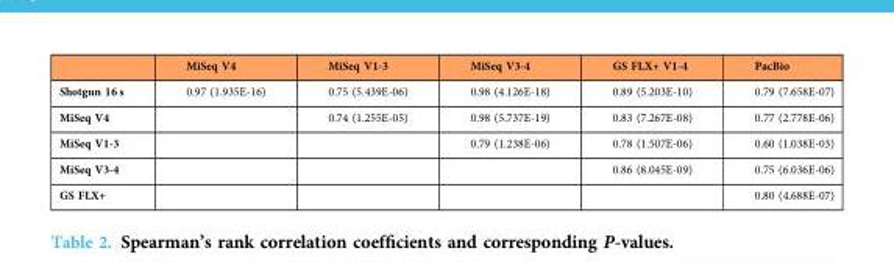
<table><thead><tr><td></td><td>MiSeq V4</td><td>MiSeq V1-3</td><td>MiSeq V3-4</td><td>GS FLX+ V1-4</td><td>PacBio</td></tr></thead><tbody><tr><td>Shotgun 16 s</td><td>0.97 (1.935E-16)</td><td>0.75 (5.439E-06)</td><td>0.98 (4.126E-18)</td><td>0.89 (5.203E-10)</td><td>0.79 (7.658E-07)</td></tr><tr><td>MiSeq V4</td><td></td><td>0.74 (1.255E-05)</td><td>0.98 (5.737E-19)</td><td>0.83 (7.267E-08)</td><td>0.77 (2.778E-06)</td></tr><tr><td>MiSeq V1-3</td><td></td><td></td><td>0.79 (1.238E-06)</td><td>0.78 (1.507E-06)</td><td>0.60 (1.038E-03)</td></tr><tr><td>MiSeq V3-4</td><td></td><td></td><td></td><td>0.86 (8.045E-09)</td><td>0.75 (6.036E-06)</td></tr><tr><td>GS FLX+</td><td></td><td></td><td></td><td></td><td>0.80 (4.688E-07)</td></tr></tbody></table>